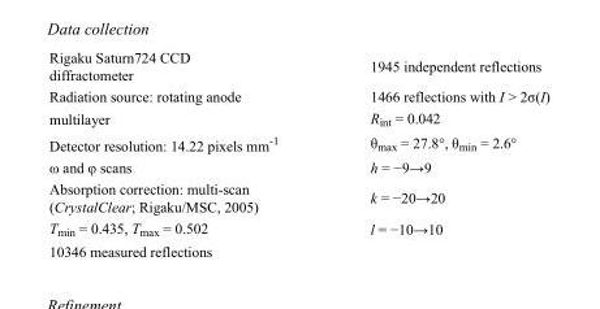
<table><tbody><tr><td>Rigaku Saturn724 CCD diffractometer</td><td>1945 independent reflections</td></tr><tr><td>Radiation source: rotating anode</td><td>1466 reflections with I &gt; 2σ(I)</td></tr><tr><td>multilayer</td><td>R<sub>int</sub> = 0.042</td></tr><tr><td>Detector resolution: 14.22 pixels mm<sup>-1</sup></td><td>θ<sub>max</sub> = 27.8°, θ<sub>min</sub> = 2.6°</td></tr><tr><td>ω and φ scans</td><td>h = −9→9</td></tr><tr><td>Absorption correction: multi-scan (CrystalClear; Rigaku/MSC, 2005)</td><td>k = −20→20</td></tr><tr><td>T<sub>min</sub> = 0.435, T<sub>max</sub> = 0.502</td><td>l = −10→10</td></tr><tr><td>10346 measured reflections</td><td></td></tr></tbody></table>